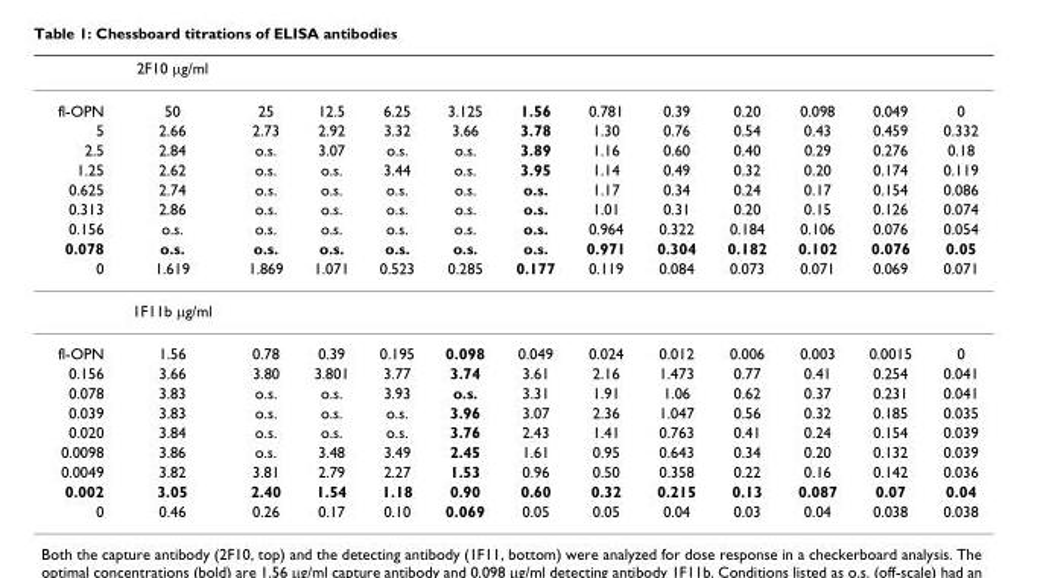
<table><thead><tr><td></td><td>2F10 μg/ml</td><td></td><td></td><td></td><td></td><td></td><td></td><td></td><td></td><td></td><td></td><td></td></tr></thead><tbody><tr><td>fl-OPN</td><td>50</td><td>25</td><td>12.5</td><td>6.25</td><td>3.125</td><td>1.56</td><td>0.781</td><td>0.39</td><td>0.20</td><td>0.098</td><td>0.049</td><td>0</td></tr><tr><td>5</td><td>2.66</td><td>2.73</td><td>2.92</td><td>3.32</td><td>3.66</td><td>3.78</td><td>1.30</td><td>0.76</td><td>0.54</td><td>0.43</td><td>0.459</td><td>0.332</td></tr><tr><td>2.5</td><td>2.84</td><td>o.s.</td><td>3.07</td><td>o.s.</td><td>o.s.</td><td>3.89</td><td>1.16</td><td>0.60</td><td>0.40</td><td>0.29</td><td>0.276</td><td>0.18</td></tr><tr><td>1.25</td><td>2.62</td><td>o.s.</td><td>o.s.</td><td>3.44</td><td>o.s.</td><td>3.95</td><td>1.14</td><td>0.49</td><td>0.32</td><td>0.20</td><td>0.174</td><td>0.119</td></tr><tr><td>0.625</td><td>2.74</td><td>o.s.</td><td>o.s.</td><td>o.s.</td><td>o.s.</td><td>o.s.</td><td>1.17</td><td>0.34</td><td>0.24</td><td>0.17</td><td>0.154</td><td>0.086</td></tr><tr><td>0.313</td><td>2.86</td><td>o.s.</td><td>o.s.</td><td>o.s.</td><td>o.s.</td><td>o.s.</td><td>1.01</td><td>0.31</td><td>0.20</td><td>0.15</td><td>0.126</td><td>0.074</td></tr><tr><td>0.156</td><td>o.s.</td><td>o.s.</td><td>o.s.</td><td>o.s.</td><td>o.s.</td><td>o.s.</td><td>0.964</td><td>0.322</td><td>0.184</td><td>0.106</td><td>0.076</td><td>0.054</td></tr><tr><td>0.078</td><td>o.s.</td><td>o.s.</td><td>o.s.</td><td>o.s.</td><td>o.s.</td><td>o.s.</td><td>0.971</td><td>0.304</td><td>0.182</td><td>0.102</td><td>0.076</td><td>0.05</td></tr><tr><td rowspan="2">0</td><td>1.619</td><td>1.869</td><td>1.071</td><td>0.523</td><td>0.285</td><td>0.177</td><td>0.119</td><td>0.084</td><td>0.073</td><td>0.071</td><td>0.069</td><td>0.071</td></tr><tr><td>1F11b μg/ml</td><td></td><td></td><td></td><td></td><td></td><td></td><td></td><td></td><td></td><td></td><td></td></tr><tr><td>fl-OPN</td><td>1.56</td><td>0.78</td><td>0.39</td><td>0.195</td><td>0.098</td><td>0.049</td><td>0.024</td><td>0.012</td><td>0.006</td><td>0.003</td><td>0.0015</td><td>0</td></tr><tr><td>0.156</td><td>3.66</td><td>3.80</td><td>3.801</td><td>3.77</td><td>3.74</td><td>3.61</td><td>2.16</td><td>1.473</td><td>0.77</td><td>0.41</td><td>0.254</td><td>0.041</td></tr><tr><td>0.078</td><td>3.83</td><td>o.s.</td><td>o.s.</td><td>3.93</td><td>o.s.</td><td>3.31</td><td>1.91</td><td>1.06</td><td>0.62</td><td>0.37</td><td>0.231</td><td>0.041</td></tr><tr><td>0.039</td><td>3.83</td><td>o.s.</td><td>o.s.</td><td>o.s.</td><td>3.96</td><td>3.07</td><td>2.36</td><td>1.047</td><td>0.56</td><td>0.32</td><td>0.185</td><td>0.035</td></tr><tr><td>0.020</td><td>3.84</td><td>o.s.</td><td>o.s.</td><td>o.s.</td><td>3.76</td><td>2.43</td><td>1.41</td><td>0.763</td><td>0.41</td><td>0.24</td><td>0.154</td><td>0.039</td></tr><tr><td>0.0098</td><td>3.86</td><td>o.s.</td><td>3.48</td><td>3.49</td><td>2.45</td><td>1.61</td><td>0.95</td><td>0.643</td><td>0.34</td><td>0.20</td><td>0.132</td><td>0.039</td></tr><tr><td>0.0049</td><td>3.82</td><td>3.81</td><td>2.79</td><td>2.27</td><td>1.53</td><td>0.96</td><td>0.50</td><td>0.358</td><td>0.22</td><td>0.16</td><td>0.142</td><td>0.036</td></tr><tr><td>0.002</td><td>3.05</td><td>2.40</td><td>1.54</td><td>1.18</td><td>0.90</td><td>0.60</td><td>0.32</td><td>0.215</td><td>0.13</td><td>0.087</td><td>0.07</td><td>0.04</td></tr><tr><td>0</td><td>0.46</td><td>0.26</td><td>0.17</td><td>0.10</td><td>0.069</td><td>0.05</td><td>0.05</td><td>0.04</td><td>0.03</td><td>0.04</td><td>0.038</td><td>0.038</td></tr></tbody></table>